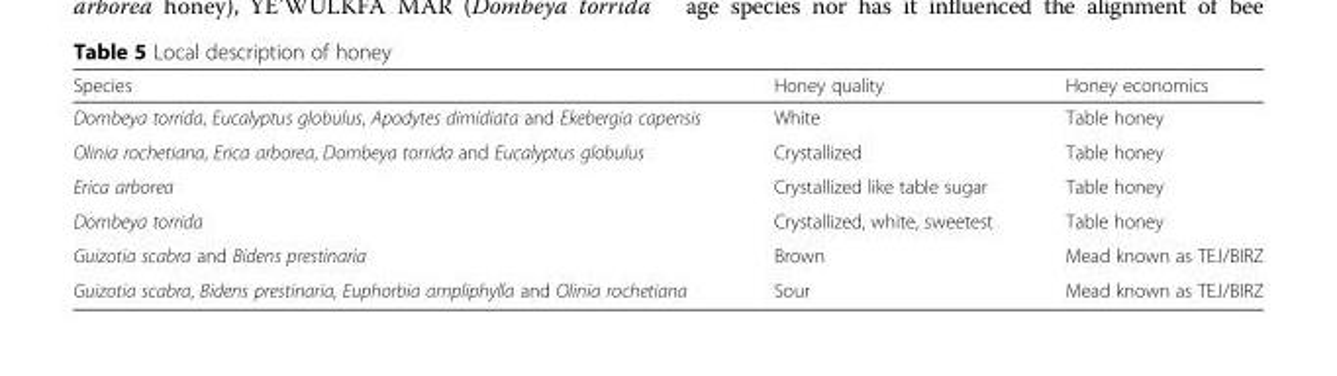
<table><thead><tr><td>Species</td><td>Honey quality</td><td>Honey economics</td></tr></thead><tbody><tr><td>Dombeya torrida, Eucalyptus globulus, Apodytes dimidiata and Ekebergia capensis</td><td>White</td><td>Table honey</td></tr><tr><td>Olinia rochetiana, Erica arborea, Dombeya torrida and Eucalyptus globulus</td><td>Crystallized</td><td>Table honey</td></tr><tr><td>Erica arborea</td><td>Crystallized like table sugar</td><td>Table honey</td></tr><tr><td>Dombeya torrida</td><td>Crystallized, white, sweetest</td><td>Table honey</td></tr><tr><td>Guizotia scabra and Bidens prestinaria</td><td>Brown</td><td>Mead known as TEJ/BIRZ</td></tr><tr><td>Guizotia scabra, Bidens prestinaria, Euphorbia ampliphylla and Olinia rochetiana</td><td>Sour</td><td>Mead known as TEJ/BIRZ</td></tr></tbody></table>